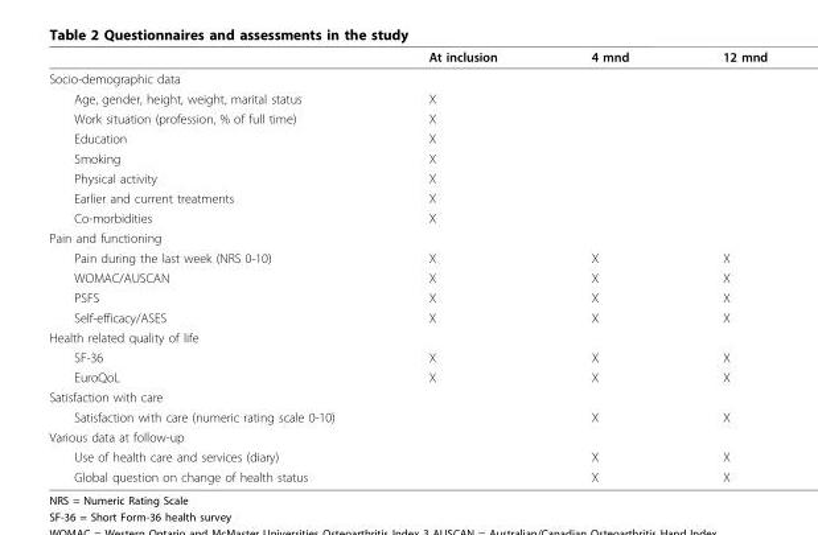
<table><thead><tr><td></td><td>At inclusion</td><td>4 mnd</td><td>12 mnd</td></tr></thead><tbody><tr><td colspan="4">Socio-demographic data</td></tr><tr><td>Age, gender, height, weight, marital status</td><td>X</td><td></td><td></td></tr><tr><td>Work situation (profession, % of full time)</td><td>X</td><td></td><td></td></tr><tr><td>Education</td><td>X</td><td></td><td></td></tr><tr><td>Smoking</td><td>X</td><td></td><td></td></tr><tr><td>Physical activity</td><td>X</td><td></td><td></td></tr><tr><td>Earlier and current treatments</td><td>X</td><td></td><td></td></tr><tr><td>Co-morbidities</td><td>X</td><td></td><td></td></tr><tr><td colspan="4">Pain and functioning</td></tr><tr><td>Pain during the last week (NRS 0-10)</td><td>X</td><td>X</td><td>X</td></tr><tr><td>WOMAC/AUSCAN</td><td>X</td><td>X</td><td>X</td></tr><tr><td>PSFS</td><td>X</td><td>X</td><td>X</td></tr><tr><td>Self-efficacy/ASES</td><td>X</td><td>X</td><td>X</td></tr><tr><td colspan="4">Health related quality of life</td></tr><tr><td>SF-36</td><td>X</td><td>X</td><td>X</td></tr><tr><td>EuroQoL</td><td>X</td><td>X</td><td>X</td></tr><tr><td colspan="4">Satisfaction with care</td></tr><tr><td>Satisfaction with care (numeric rating scale 0-10)</td><td></td><td>X</td><td>X</td></tr><tr><td colspan="4">Various data at follow-up</td></tr><tr><td>Use of health care and services (diary)</td><td></td><td>X</td><td>X</td></tr><tr><td>Global question on change of health status</td><td></td><td>X</td><td>X</td></tr></tbody></table>